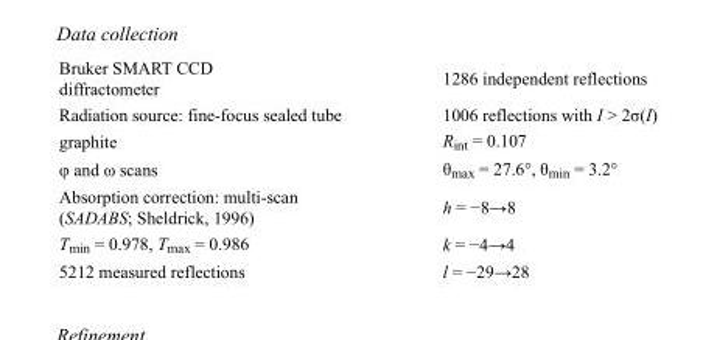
<table><tbody><tr><td>Bruker SMART CCD diffractometer</td><td>1286 independent reflections</td></tr><tr><td>Radiation source: fine-focus sealed tube</td><td>1006 reflections with I &gt; 2σ(I)</td></tr><tr><td>graphite</td><td>R<sub>int</sub> = 0.107</td></tr><tr><td>φ and ω scans</td><td>θ<sub>max</sub> = 27.6°, θ<sub>min</sub> = 3.2°</td></tr><tr><td>Absorption correction: multi-scan (SADABS; Sheldrick, 1996)</td><td>h = −8→8</td></tr><tr><td>T<sub>min</sub> = 0.978, T<sub>max</sub> = 0.986</td><td>k = −4→4</td></tr><tr><td>5212 measured reflections</td><td>l = −29→28</td></tr></tbody></table>